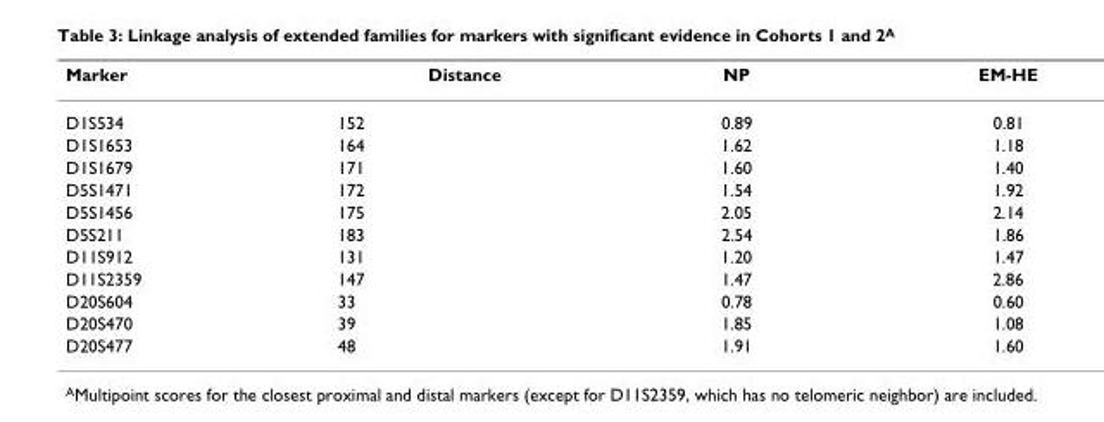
<table><thead><tr><td>Marker</td><td>Distance</td><td>NP</td><td>EM-HE</td></tr></thead><tbody><tr><td>D1S534</td><td>152</td><td>0.89</td><td>0.81</td></tr><tr><td>D1S1653</td><td>164</td><td>1.62</td><td>1.18</td></tr><tr><td>D1S1679</td><td>171</td><td>1.60</td><td>1.40</td></tr><tr><td>D5S1471</td><td>172</td><td>1.54</td><td>1.92</td></tr><tr><td>D5S1456</td><td>175</td><td>2.05</td><td>2.14</td></tr><tr><td>D5S211</td><td>183</td><td>2.54</td><td>1.86</td></tr><tr><td>D11S912</td><td>131</td><td>1.20</td><td>1.47</td></tr><tr><td>D11S2359</td><td>147</td><td>1.47</td><td>2.86</td></tr><tr><td>D20S604</td><td>33</td><td>0.78</td><td>0.60</td></tr><tr><td>D20S470</td><td>39</td><td>1.85</td><td>1.08</td></tr><tr><td>D20S477</td><td>48</td><td>1.91</td><td>1.60</td></tr></tbody></table>